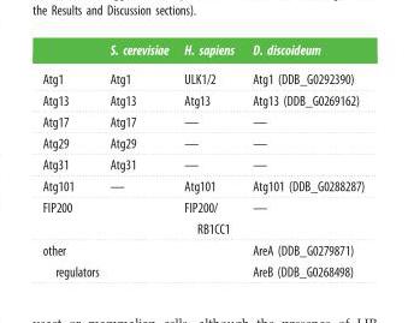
<table><thead><tr><td></td><td>S. cerevisiae</td><td>H. sapiens</td><td>D. discoideum</td></tr></thead><tbody><tr><td>Atg1</td><td>Atg1</td><td>ULK1/2</td><td>Atg1 (DDB_G0292390)</td></tr><tr><td>Atg13</td><td>Atg13</td><td>Atg13</td><td>Atg13 (DDB_G0269162)</td></tr><tr><td>Atg17</td><td>Atg17</td><td>—</td><td>—</td></tr><tr><td>Atg29</td><td>Atg29</td><td>—</td><td>—</td></tr><tr><td>Atg31</td><td>Atg31</td><td>—</td><td>—</td></tr><tr><td>Atg101</td><td>—</td><td>Atg101</td><td>Atg101 (DDB_G0288287)</td></tr><tr><td>FIP200</td><td></td><td>FIP200/ RB1CC1</td><td>—</td></tr><tr><td>other regulators</td><td></td><td></td><td>AreA (DDB_G0279871) AreB (DDB_G0268498)</td></tr></tbody></table>